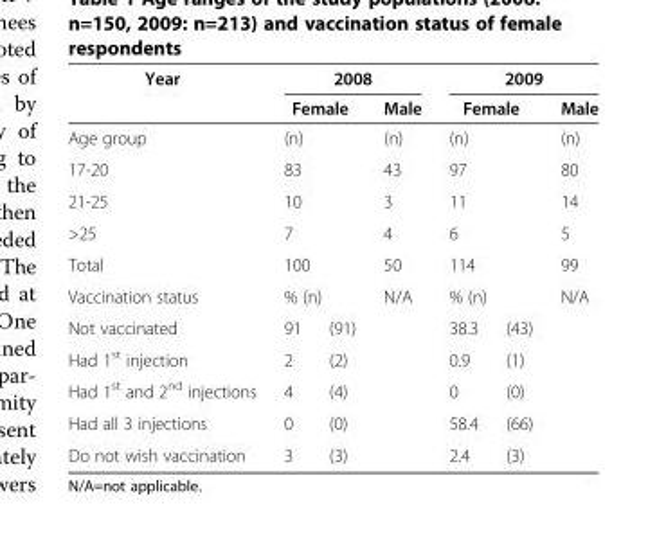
<table><thead><tr><td rowspan="2">Year</td><td colspan="3">2008</td><td colspan="3">2009</td></tr><tr><td colspan="2">Female</td><td>Male</td><td colspan="2">Female</td><td>Male</td></tr></thead><tbody><tr><td>Age group</td><td colspan="2">(n)</td><td>(n)</td><td colspan="2">(n)</td><td>(n)</td></tr><tr><td>17-20</td><td colspan="2">83</td><td>43</td><td colspan="2">97</td><td>80</td></tr><tr><td>21-25</td><td colspan="2">10</td><td>3</td><td colspan="2">11</td><td>14</td></tr><tr><td>&gt;25</td><td colspan="2">7</td><td>4</td><td colspan="2">6</td><td>5</td></tr><tr><td>Total</td><td colspan="2">100</td><td>50</td><td colspan="2">114</td><td>99</td></tr><tr><td>Vaccination status</td><td colspan="2">% (n)</td><td>N/A</td><td colspan="2">% (n)</td><td>N/A</td></tr><tr><td>Not vaccinated</td><td>91</td><td>(91)</td><td></td><td>38.3</td><td>(43)</td><td></td></tr><tr><td>Had 1<sup>st</sup> injection</td><td>2</td><td>(2)</td><td></td><td>0.9</td><td>(1)</td><td></td></tr><tr><td>Had 1<sup>st</sup> and 2<sup>nd</sup> injections</td><td>4</td><td>(4)</td><td></td><td>0</td><td>(0)</td><td></td></tr><tr><td>Had all 3 injections</td><td>0</td><td>(0)</td><td></td><td>58.4</td><td>(66)</td><td></td></tr><tr><td>Do not wish vaccination</td><td>3</td><td>(3)</td><td></td><td>2.4</td><td>(3)</td><td></td></tr></tbody></table>